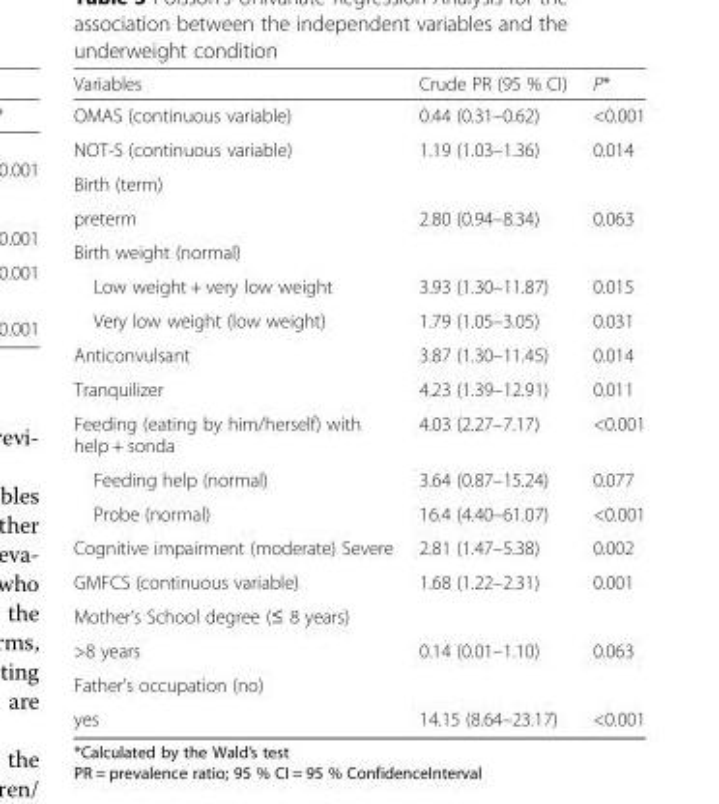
<table><thead><tr><td>Variables</td><td>Crude PR (95 % CI)</td><td>P*</td></tr></thead><tbody><tr><td>OMAS (continuous variable)</td><td>0.44 (0.31–0.62)</td><td>&lt;0.001</td></tr><tr><td>NOT-S (continuous variable)</td><td>1.19 (1.03–1.36)</td><td>0.014</td></tr><tr><td colspan="3">Birth (term)</td></tr><tr><td>preterm</td><td>2.80 (0.94–8.34)</td><td>0.063</td></tr><tr><td colspan="3">Birth weight (normal)</td></tr><tr><td>Low weight + very low weight</td><td>3.93 (1.30–11.87)</td><td>0.015</td></tr><tr><td>Very low weight (low weight)</td><td>1.79 (1.05–3.05)</td><td>0.031</td></tr><tr><td>Anticonvulsant</td><td>3.87 (1.30–11.45)</td><td>0.014</td></tr><tr><td>Tranquilizer</td><td>4.23 (1.39–12.91)</td><td>0.011</td></tr><tr><td>Feeding (eating by him/herself) with help + sonda</td><td>4.03 (2.27–7.17)</td><td>&lt;0.001</td></tr><tr><td>Feeding help (normal)</td><td>3.64 (0.87–15.24)</td><td>0.077</td></tr><tr><td>Probe (normal)</td><td>16.4 (4.40–61.07)</td><td>&lt;0.001</td></tr><tr><td>Cognitive impairment (moderate) Severe</td><td>2.81 (1.47–5.38)</td><td>0.002</td></tr><tr><td>GMFCS (continuous variable)</td><td>1.68 (1.22–2.31)</td><td>0.001</td></tr><tr><td colspan="3">Mother’s School degree (≤ 8 years)</td></tr><tr><td>&gt;8 years</td><td>0.14 (0.01–1.10)</td><td>0.063</td></tr><tr><td colspan="3">Father’s occupation (no)</td></tr><tr><td>yes</td><td>14.15 (8.64–23.17)</td><td>&lt;0.001</td></tr></tbody></table>